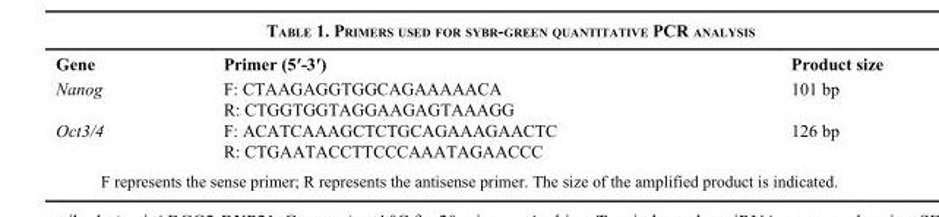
<table><thead><tr><td>Gene</td><td>Primer (5′-3′)</td><td>Product size</td></tr></thead><tbody><tr><td rowspan="2">Nanog</td><td>F: CTAAGAGGTGGCAGAAAAACA</td><td>101 bp</td></tr><tr><td>R: CTGGTGGTAGGAAGAGTAAAGG</td><td></td></tr><tr><td rowspan="2">Oct3/4</td><td>F: ACATCAAAGCTCTGCAGAAAGAACTC</td><td>126 bp</td></tr><tr><td>R: CTGAATACCTTCCCAAATAGAACCC</td><td></td></tr></tbody></table>